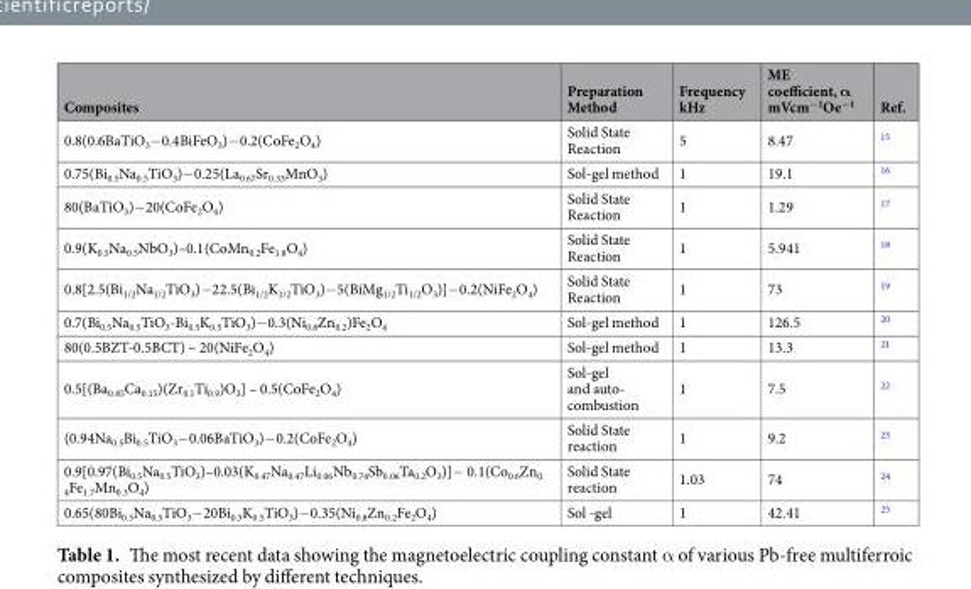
<table><thead><tr><td>Composites</td><td>Preparation Method</td><td>Frequency kHz</td><td>ME coefficient, α mVcm<sup>−1</sup>Oe<sup>−1</sup></td><td>Ref.</td></tr></thead><tbody><tr><td>0.8(0.6BaTiO<sub>3</sub>−0.4BiFeO<sub>3</sub>)−0.2(CoFe<sub>2</sub>O<sub>4</sub>)</td><td>Solid State Reaction</td><td>5</td><td>8.47</td><td><sup>15</sup></td></tr><tr><td>0.75(Bi<sub>0.5</sub>Na<sub>0.5</sub>TiO<sub>3</sub>)−0.25(La<sub>0.67</sub>Sr<sub>0.33</sub>MnO<sub>3</sub>)</td><td>Sol-gel method</td><td>1</td><td>19.1</td><td><sup>16</sup></td></tr><tr><td>80(BaTiO<sub>3</sub>)−20(CoFe<sub>2</sub>O<sub>4</sub>)</td><td>Solid State Reaction</td><td>1</td><td>1.29</td><td><sup>17</sup></td></tr><tr><td>0.9(K<sub>0.5</sub>Na<sub>0.5</sub>NbO<sub>3</sub>)–0.1(CoMn<sub>0.2</sub>Fe<sub>1.8</sub>O<sub>4</sub>)</td><td>Solid State Reaction</td><td>1</td><td>5.941</td><td><sup>18</sup></td></tr><tr><td>0.8[2.5(Bi<sub>1/2</sub>Na<sub>1/2</sub>TiO<sub>3</sub>)−22.5(Bi<sub>1/2</sub>K<sub>1/2</sub>TiO<sub>3</sub>)−5(BiMg<sub>1/2</sub>Ti<sub>1/2</sub>O<sub>3</sub>)]−0.2(NiFe<sub>2</sub>O<sub>4</sub>)</td><td>Solid State Reaction</td><td>1</td><td>73</td><td><sup>19</sup></td></tr><tr><td>0.7(Bi<sub>0.5</sub>Na<sub>0.5</sub>TiO<sub>3</sub>-Bi<sub>0.5</sub>K<sub>0.5</sub>TiO<sub>3</sub>)−0.3(Ni<sub>0.8</sub>Zn<sub>0.2</sub>)Fe<sub>2</sub>O<sub>4</sub></td><td>Sol-gel method</td><td>1</td><td>126.5</td><td><sup>20</sup></td></tr><tr><td>80(0.5BZT-0.5BCT) – 20(NiFe<sub>2</sub>O<sub>4</sub>)</td><td>Sol-gel method</td><td>1</td><td>13.3</td><td><sup>21</sup></td></tr><tr><td>0.5[(Ba<sub>0.85</sub>Ca<sub>0.15</sub>)(Zr<sub>0.1</sub>Ti<sub>0.9</sub>)O<sub>3</sub>] – 0.5(CoFe<sub>2</sub>O<sub>4</sub>)</td><td>Sol-gel and auto- combustion</td><td>1</td><td>7.5</td><td><sup>22</sup></td></tr><tr><td>(0.94Na<sub>0.5</sub>Bi<sub>0.5</sub>TiO<sub>3</sub>−0.06BaTiO<sub>3</sub>)−0.2(CoFe<sub>2</sub>O<sub>4</sub>)</td><td>Solid State reaction</td><td>1</td><td>9.2</td><td><sup>23</sup></td></tr><tr><td>0.9[0.97(Bi<sub>0.5</sub>Na<sub>0.5</sub>TiO<sub>3</sub>)–0.03(K<sub>0.47</sub>Na<sub>0.47</sub>Li<sub>0.06</sub>Nb<sub>0.74</sub>Sb<sub>0.06</sub>Ta<sub>0.2</sub>O<sub>3</sub>)]− 0.1(Co<sub>0.6</sub>Zn<sub>0. 4</sub>Fe<sub>1.7</sub>Mn<sub>0.3</sub>O<sub>4</sub>)</td><td>Solid State reaction</td><td>1.03</td><td>74</td><td><sup>24</sup></td></tr><tr><td>0.65(80Bi<sub>0.5</sub>Na<sub>0.5</sub>TiO<sub>3</sub>−20Bi<sub>0.5</sub>K<sub>0.5</sub>TiO<sub>3</sub>)−0.35(Ni<sub>0.8</sub>Zn<sub>0.2</sub>Fe<sub>2</sub>O<sub>4</sub>)</td><td>Sol -gel</td><td>1</td><td>42.41</td><td><sup>25</sup></td></tr></tbody></table>